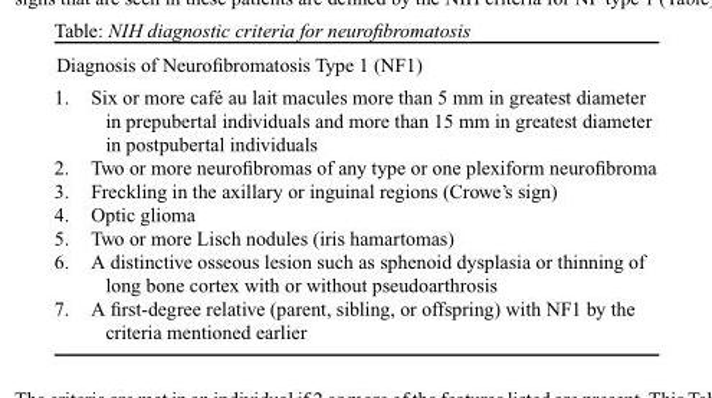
<table><tbody><tr><td colspan="2">Diagnosis of Neurofibromatosis Type 1 (NF1)</td></tr><tr><td>1.</td><td>Six or more caf´e au lait macules more than 5 mm in greatest diameter in prepubertal individuals and more than 15 mm in greatest diameter in postpubertal individuals</td></tr><tr><td>2.</td><td>Two or more neurofibromas of any type or one plexiform neurofibroma</td></tr><tr><td>3.</td><td>Freckling in the axillary or inguinal regions (Crowe’s sign)</td></tr><tr><td>4.</td><td>Optic glioma</td></tr><tr><td>5.</td><td>Two or more Lisch nodules (iris hamartomas)</td></tr><tr><td>6.</td><td>A distinctive osseous lesion such as sphenoid dysplasia or thinning of long bone cortex with or without pseudoarthrosis</td></tr><tr><td>7.</td><td>A first-degree relative (parent, sibling, or offspring) with NF1 by the criteria mentioned earlier</td></tr></tbody></table>